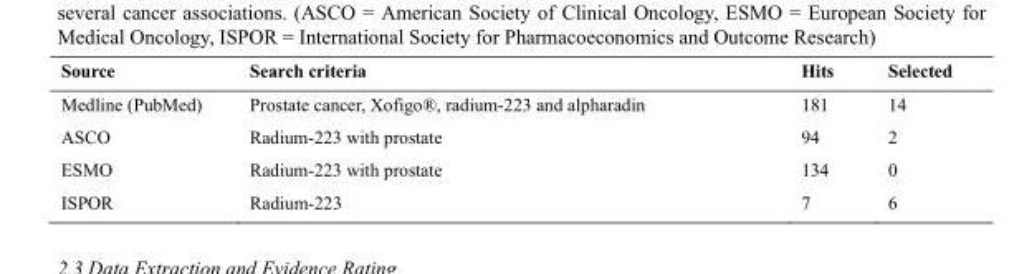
<table><thead><tr><td>Source</td><td>Search criteria</td><td>Hits</td><td>Selected</td></tr></thead><tbody><tr><td>Medline (PubMed)</td><td>Prostate cancer, Xofigo®, radium-223 and alpharadin</td><td>181</td><td>14</td></tr><tr><td>ASCO</td><td>Radium-223 with prostate</td><td>94</td><td>2</td></tr><tr><td>ESMO</td><td>Radium-223 with prostate</td><td>134</td><td>0</td></tr><tr><td>ISPOR</td><td>Radium-223</td><td>7</td><td>6</td></tr></tbody></table>